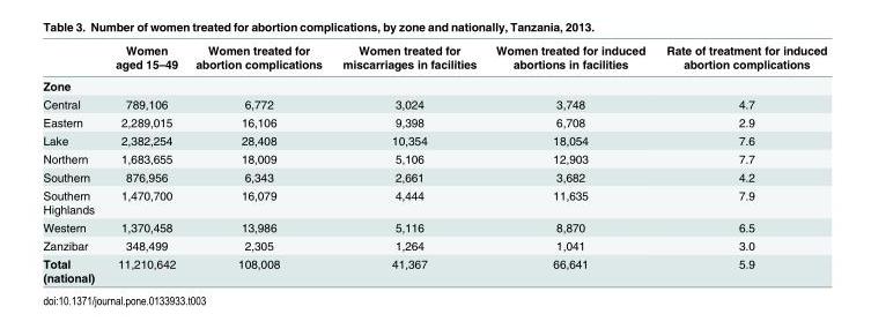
<table><thead><tr><td></td><td>Women aged 15–49</td><td>Women treated for abortion complications</td><td>Women treated for miscarriages in facilities</td><td>Women treated for induced abortions in facilities</td><td>Rate of treatment for induced abortion complications</td></tr></thead><tbody><tr><td colspan="6">Zone</td></tr><tr><td>Central</td><td>789,106</td><td>6,772</td><td>3,024</td><td>3,748</td><td>4.7</td></tr><tr><td>Eastern</td><td>2,289,015</td><td>16,106</td><td>9,398</td><td>6,708</td><td>2.9</td></tr><tr><td>Lake</td><td>2,382,254</td><td>28,408</td><td>10,354</td><td>18,054</td><td>7.6</td></tr><tr><td>Northern</td><td>1,683,655</td><td>18,009</td><td>5,106</td><td>12,903</td><td>7.7</td></tr><tr><td>Southern</td><td>876,956</td><td>6,343</td><td>2,661</td><td>3,682</td><td>4.2</td></tr><tr><td>Southern Highlands</td><td>1,470,700</td><td>16,079</td><td>4,444</td><td>11,635</td><td>7.9</td></tr><tr><td>Western</td><td>1,370,458</td><td>13,986</td><td>5,116</td><td>8,870</td><td>6.5</td></tr><tr><td>Zanzibar</td><td>348,499</td><td>2,305</td><td>1,264</td><td>1,041</td><td>3.0</td></tr><tr><td>Total (national)</td><td>11,210,642</td><td>108,008</td><td>41,367</td><td>66,641</td><td>5.9</td></tr></tbody></table>